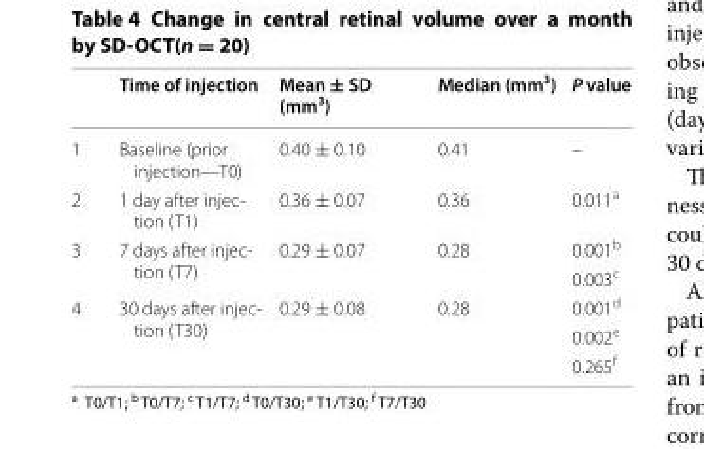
<table><thead><tr><td></td><td>Time of injection</td><td>Mean ± SD (mm<sup>3</sup>)</td><td>Median (mm<sup>3</sup>)</td><td>P value</td></tr></thead><tbody><tr><td>1</td><td>Baseline (prior injection—T0)</td><td>0.40 ± 0.10</td><td>0.41</td><td>–</td></tr><tr><td>2</td><td>1 day after injec- tion (T1)</td><td>0.36 ± 0.07</td><td>0.36</td><td>0.011<sup>a</sup></td></tr><tr><td rowspan="2">3</td><td rowspan="2">7 days after injec- tion (T7)</td><td rowspan="2">0.29 ± 0.07</td><td rowspan="2">0.28</td><td>0.001<sup>b</sup></td></tr><tr><td>0.003<sup>c</sup></td></tr><tr><td rowspan="3">4</td><td rowspan="3">30 days after injec- tion (T30)</td><td rowspan="3">0.29 ± 0.08</td><td rowspan="3">0.28</td><td>0.001<sup>d</sup></td></tr><tr><td>0.002<sup>e</sup></td></tr><tr><td>0.265<sup>f</sup></td></tr></tbody></table>